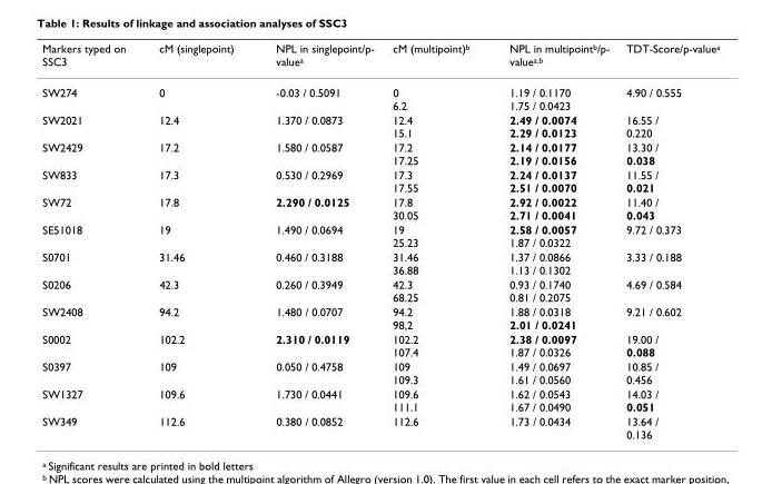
<table><thead><tr><td>Markers typed on SSC3</td><td>cM (singlepoint)</td><td>NPL in singlepoint/p- valuea</td><td>cM (multipoint)b</td><td>NPL in multipointb/p- valuea,b</td><td>TDT-Score/p-valuea</td></tr></thead><tbody><tr><td>SW274</td><td>0</td><td>-0.03 / 0.5091</td><td>0 6.2</td><td>1.19 / 0.1170 1.75 / 0.0423</td><td>4.90 / 0.555</td></tr><tr><td>SW2021</td><td>12.4</td><td>1.370 / 0.0873</td><td>12.4 15.1</td><td>2.49 / 0.0074 2.29 / 0.0123</td><td>16.55 / 0.220</td></tr><tr><td>SW2429</td><td>17.2</td><td>1.580 / 0.0587</td><td>17.2 17.25</td><td>2.14 / 0.0177 2.19 / 0.0156</td><td>13.30 / 0.038</td></tr><tr><td>SW833</td><td>17.3</td><td>0.530 / 0.2969</td><td>17.3 17.55</td><td>2.24 / 0.0137 2.51 / 0.0070</td><td>11.55 / 0.021</td></tr><tr><td>SW72</td><td>17.8</td><td>2.290 / 0.0125</td><td>17.8 30.05</td><td>2.92 / 0.0022 2.71 / 0.0041</td><td>11.40 / 0.043</td></tr><tr><td>SE51018</td><td>19</td><td>1.490 / 0.0694</td><td>19 25.23</td><td>2.58 / 0.0057 1.87 / 0.0322</td><td>9.72 / 0.373</td></tr><tr><td>S0701</td><td>31.46</td><td>0.460 / 0.3188</td><td>31.46 36.88</td><td>1.37 / 0.0866 1.13 / 0.1302</td><td>3.33 / 0.188</td></tr><tr><td>S0206</td><td>42.3</td><td>0.260 / 0.3949</td><td>42.3 68.25</td><td>0.93 / 0.1740 0.81 / 0.2075</td><td>4.69 / 0.584</td></tr><tr><td>SW2408</td><td>94.2</td><td>1.480 / 0.0707</td><td>94.2 98,2</td><td>1.88 / 0.0318 2.01 / 0.0241</td><td>9.21 / 0.602</td></tr><tr><td>S0002</td><td>102.2</td><td>2.310 / 0.0119</td><td>102.2 107.4</td><td>2.38 / 0.0097 1.87 / 0.0326</td><td>19.00 / 0.088</td></tr><tr><td>S0397</td><td>109</td><td>0.050 / 0.4758</td><td>109 109.3</td><td>1.49 / 0.0697 1.61 / 0.0560</td><td>10.85 / 0.456</td></tr><tr><td>SW1327</td><td>109.6</td><td>1.730 / 0.0441</td><td>109.6 111.1</td><td>1.62 / 0.0543 1.67 / 0.0490</td><td>14.03 / 0.051</td></tr><tr><td>SW349</td><td>112.6</td><td>0.380 / 0.0852</td><td>112.6</td><td>1.73 / 0.0434</td><td>13.64 / 0.136</td></tr></tbody></table>